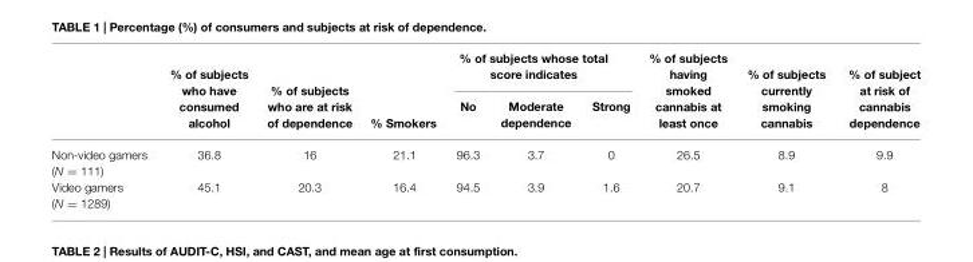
<table><thead><tr><td rowspan="2"></td><td rowspan="2">% of subjects who have consumed alcohol</td><td rowspan="2">% of subjects who are at risk of dependence</td><td rowspan="2">% Smokers</td><td colspan="3">% of subjects whose total score indicates</td><td rowspan="2">% of subjects having smoked cannabis at least once</td><td rowspan="2">% of subjects currently smoking cannabis</td><td rowspan="2">% of subject at risk of cannabis dependence</td></tr><tr><td>No</td><td>Moderate dependence</td><td>Strong</td></tr></thead><tbody><tr><td>Non-video gamers (N = 111)</td><td>36.8</td><td>16</td><td>21.1</td><td>96.3</td><td>3.7</td><td>0</td><td>26.5</td><td>8.9</td><td>9.9</td></tr><tr><td>Video gamers (N = 1289)</td><td>45.1</td><td>20.3</td><td>16.4</td><td>94.5</td><td>3.9</td><td>1.6</td><td>20.7</td><td>9.1</td><td>8</td></tr></tbody></table>